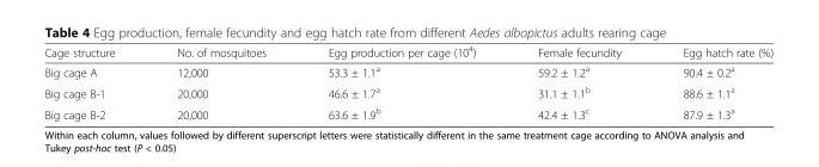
<table><thead><tr><td>Cage structure</td><td>No. of mosquitoes</td><td>Egg production per cage (10<sup>4</sup>)</td><td>Female fecundity</td><td>Egg hatch rate (%)</td></tr></thead><tbody><tr><td>Big cage A</td><td>12,000</td><td>53.3 ± 1.1<sup>a</sup></td><td>59.2 ± 1.2<sup>a</sup></td><td>90.4 ± 0.2<sup>a</sup></td></tr><tr><td>Big cage B-1</td><td>20,000</td><td>46.6 ± 1.7<sup>a</sup></td><td>31.1 ± 1.1<sup>b</sup></td><td>88.6 ± 1.1<sup>a</sup></td></tr><tr><td>Big cage B-2</td><td>20,000</td><td>63.6 ± 1.9<sup>b</sup></td><td>42.4 ± 1.3<sup>c</sup></td><td>87.9 ± 1.3<sup>a</sup></td></tr></tbody></table>